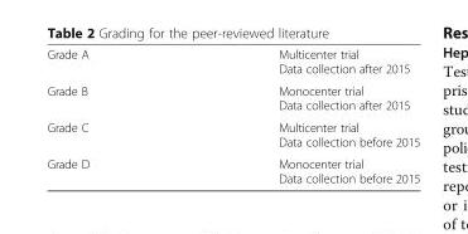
<table><tbody><tr><td>Grade A</td><td>Multicenter trial Data collection after 2015</td></tr><tr><td>Grade B</td><td>Monocenter trial Data collection after 2015</td></tr><tr><td>Grade C</td><td>Multicenter trial Data collection before 2015</td></tr><tr><td>Grade D</td><td>Monocenter trial Data collection before 2015</td></tr></tbody></table>